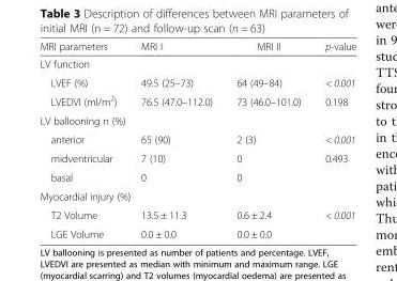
<table><thead><tr><td>MRI parameters</td><td>MRI I</td><td>MRI II</td><td>p-value</td></tr></thead><tbody><tr><td colspan="4">LV function</td></tr><tr><td>LVEF (%)</td><td>49.5 (25–73)</td><td>64 (49–84)</td><td>&lt; 0.001</td></tr><tr><td>LVEDVI (ml/m<sup>2</sup>)</td><td>76.5 (47.0–112.0)</td><td>73 (46.0–101.0)</td><td>0.198</td></tr><tr><td colspan="4">LV ballooning n (%)</td></tr><tr><td>anterior</td><td>65 (90)</td><td>2 (3)</td><td>&lt; 0.001</td></tr><tr><td>midventricular</td><td>7 (10)</td><td>0</td><td>0.493</td></tr><tr><td>basal</td><td>0</td><td>0</td><td></td></tr><tr><td colspan="4">Myocardial injury (%)</td></tr><tr><td>T2 Volume</td><td>13.5 ± 11.3</td><td>0.6 ± 2.4</td><td>&lt; 0.001</td></tr><tr><td>LGE Volume</td><td>0.0 ± 0.0</td><td>0.0 ± 0.0</td><td></td></tr></tbody></table>